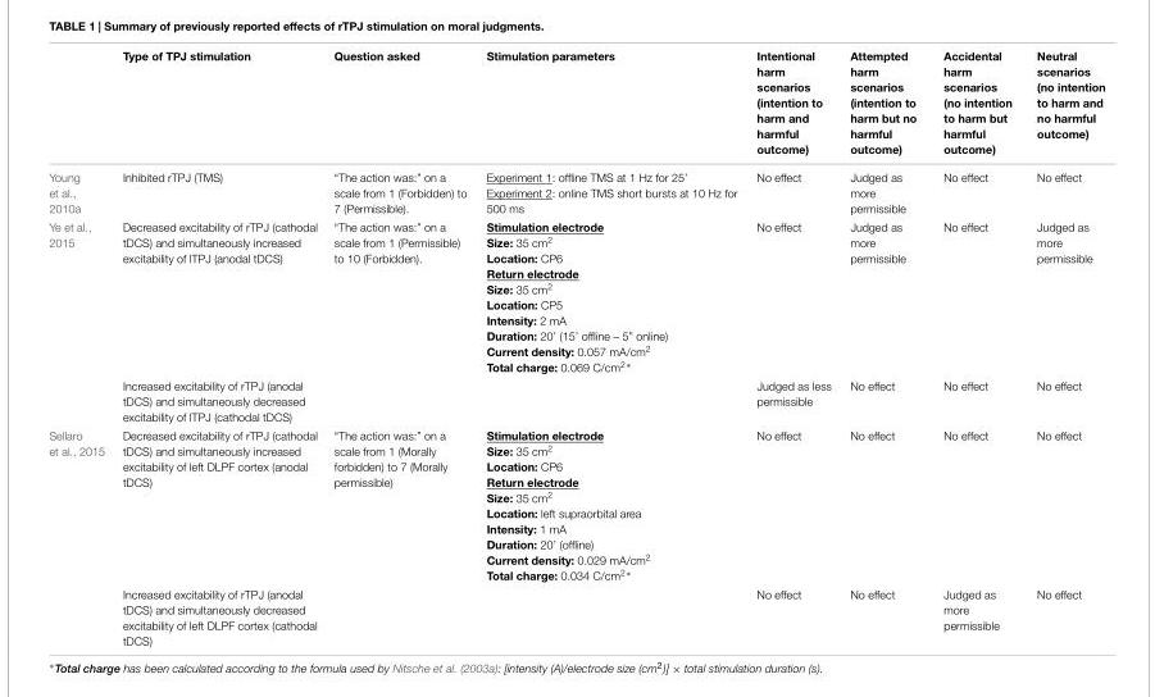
<table><thead><tr><td></td><td>Type of TPJ stimulation</td><td>Question asked</td><td>Stimulation parameters</td><td>Intentional harm scenarios (intention to harm and harmful outcome)</td><td>Attempted harm scenarios (intention to harm but no harmful outcome)</td><td>Accidental harm scenarios (no intention to harm but harmful outcome)</td><td>Neutral scenarios (no intention to harm and no harmful outcome)</td></tr></thead><tbody><tr><td>Young et al., 2010a</td><td>Inhibited rTPJ (TMS)</td><td>“The action was:” on a scale from 1 (Forbidden) to 7 (Permissible).</td><td>Experiment 1: offline TMS at 1 Hz for 25’ Experiment 2: online TMS short bursts at 10 Hz for 500 ms</td><td>No effect</td><td>Judged as more permissible</td><td>No effect</td><td>No effect</td></tr><tr><td rowspan="2">Ye et al., 2015</td><td>Decreased excitability of rTPJ (cathodal tDCS) and simultaneously increased excitability of lTPJ (anodal tDCS)</td><td>“The action was:” on a scale from 1 (Permissible) to 10 (Forbidden).</td><td>Stimulation electrode Size: 35 cm2 Location: CP6 Return electrode Size: 35 cm2 Location: CP5 Intensity: 2 mA Duration: 20’ (15’ offline – 5” online) Current density: 0.057 mA/cm2 Total charge: 0.069 C/cm2∗</td><td>No effect</td><td>Judged as more permissible</td><td>No effect</td><td>Judged as more permissible</td></tr><tr><td>Increased excitability of rTPJ (anodal tDCS) and simultaneously decreased excitability of lTPJ (cathodal tDCS)</td><td></td><td></td><td>Judged as less permissible</td><td>No effect</td><td>No effect</td><td>No effect</td></tr><tr><td rowspan="2">Sellaro et al., 2015</td><td>Decreased excitability of rTPJ (cathodal tDCS) and simultaneously increased excitability of left DLPF cortex (anodal tDCS)</td><td>“The action was:” on a scale from 1 (Morally forbidden) to 7 (Morally permissible)</td><td>Stimulation electrode Size: 35 cm2 Location: CP6 Return electrode Size: 35 cm2 Location: left supraorbital area Intensity: 1 mA Duration: 20’ (offline) Current density: 0.029 mA/cm2 Total charge: 0.034 C/cm2∗</td><td>No effect</td><td>No effect</td><td>No effect</td><td>No effect</td></tr><tr><td>Increased excitability of rTPJ (anodal tDCS) and simultaneously decreased excitability of left DLPF cortex (cathodal tDCS)</td><td></td><td></td><td>No effect</td><td>No effect</td><td>Judged as more permissible</td><td>No effect</td></tr></tbody></table>